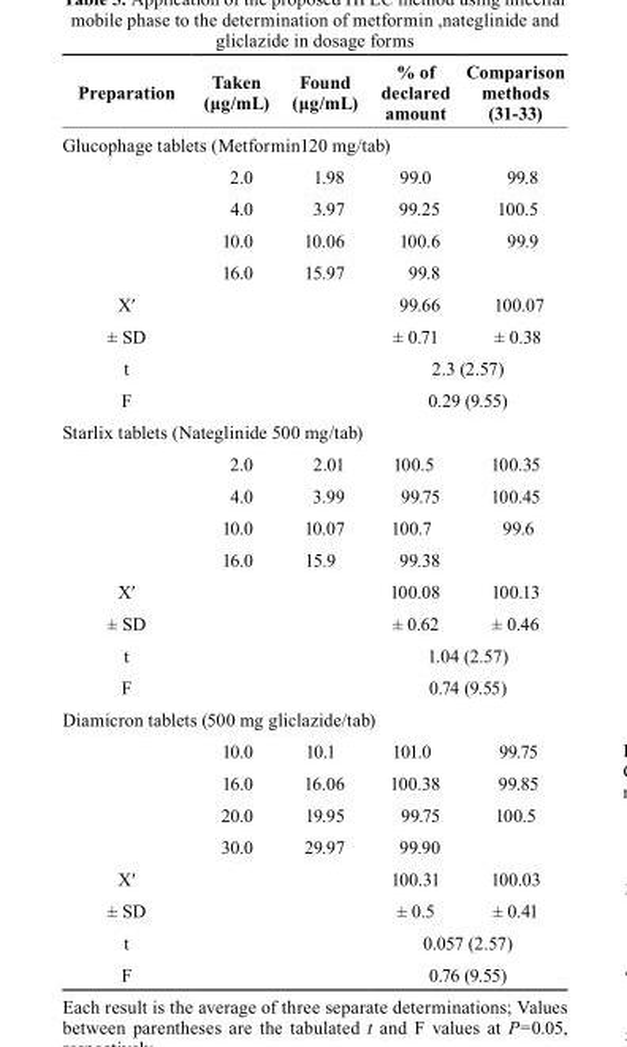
<table><thead><tr><td>Preparation</td><td>taken (μg/mL)</td><td>Found (μg/mL)</td><td>% of declared amount</td><td>comparison methods (31-33)</td></tr></thead><tbody><tr><td colspan="5">Glucophage tablets (Metformin120 mg/tab)</td></tr><tr><td></td><td>2.0</td><td>1.98</td><td>99.0</td><td>99.8</td></tr><tr><td></td><td>4.0</td><td>3.97</td><td>99.25</td><td>100.5</td></tr><tr><td></td><td>10.0</td><td>10.06</td><td>100.6</td><td>99.9</td></tr><tr><td></td><td>16.0</td><td>15.97</td><td>99.8</td><td></td></tr><tr><td>X′</td><td></td><td></td><td>99.66</td><td>100.07</td></tr><tr><td>± SD</td><td></td><td></td><td>± 0.71</td><td>± 0.38</td></tr><tr><td>t</td><td></td><td></td><td colspan="2">2.3 (2.57)</td></tr><tr><td>F</td><td></td><td></td><td colspan="2">0.29 (9.55)</td></tr><tr><td colspan="5">Starlix tablets (Nateglinide 500 mg/tab)</td></tr><tr><td></td><td>2.0</td><td>2.01</td><td>100.5</td><td>100.35</td></tr><tr><td></td><td>4.0</td><td>3.99</td><td>99.75</td><td>100.45</td></tr><tr><td></td><td>10.0</td><td>10.07</td><td>100.7</td><td>99.6</td></tr><tr><td></td><td>16.0</td><td>15.9</td><td>99.38</td><td></td></tr><tr><td>X′</td><td></td><td></td><td>100.08</td><td>100.13</td></tr><tr><td>± SD</td><td></td><td></td><td>± 0.62</td><td>± 0.46</td></tr><tr><td>t</td><td></td><td></td><td colspan="2">1.04 (2.57)</td></tr><tr><td>F</td><td></td><td></td><td colspan="2">0.74 (9.55)</td></tr><tr><td colspan="5">Diamicron tablets (500 mg gliclazide/tab)</td></tr><tr><td></td><td>10.0</td><td>10.1</td><td>101.0</td><td>99.75</td></tr><tr><td></td><td>16.0</td><td>16.06</td><td>100.38</td><td>99.85</td></tr><tr><td></td><td>20.0</td><td>19.95</td><td>99.75</td><td>100.5</td></tr><tr><td></td><td>30.0</td><td>29.97</td><td>99.90</td><td></td></tr><tr><td>X′</td><td></td><td></td><td>100.31</td><td>100.03</td></tr><tr><td>± SD</td><td></td><td></td><td>± 0.5</td><td>± 0.41</td></tr><tr><td>t</td><td></td><td></td><td colspan="2">0.057 (2.57)</td></tr><tr><td>F</td><td></td><td></td><td colspan="2">0.76 (9.55)</td></tr></tbody></table>